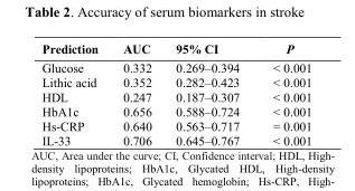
<table><thead><tr><td>Prediction</td><td>AUC</td><td>95% CI</td><td>P</td></tr></thead><tbody><tr><td>Glucose</td><td>0.332</td><td>0.269–0.394</td><td>&lt; 0.001</td></tr><tr><td>Lithic acid</td><td>0.352</td><td>0.282–0.423</td><td>&lt; 0.001</td></tr><tr><td>HDL</td><td>0.247</td><td>0.187–0.307</td><td>&lt; 0.001</td></tr><tr><td>HbA1c</td><td>0.656</td><td>0.588–0.724</td><td>&lt; 0.001</td></tr><tr><td>Hs-CRP</td><td>0.640</td><td>0.563–0.717</td><td>= 0.001</td></tr><tr><td>IL-33</td><td>0.706</td><td>0.645–0.767</td><td>&lt; 0.001</td></tr></tbody></table>